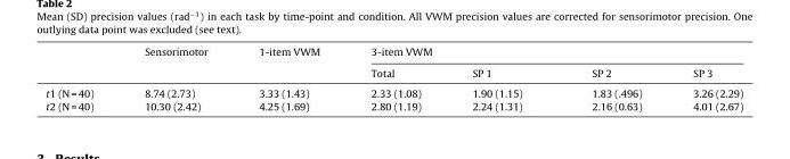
<table><thead><tr><td rowspan="2"></td><td rowspan="2">Sensorimotor</td><td rowspan="2">1-item VWM</td><td colspan="4">3-item VWM</td></tr><tr><td>Total</td><td>SP 1</td><td>SP 2</td><td>SP 3</td></tr></thead><tbody><tr><td>t1 (N = 40)</td><td>8.74 (2.73)</td><td>3.33 (1.43)</td><td>2.33 (1.08)</td><td>1.90 (1.15)</td><td>1.83 (.496)</td><td>3.26 (2.29)</td></tr><tr><td>t2 (N = 40)</td><td>10.30 (2.42)</td><td>4.25 (1.69)</td><td>2.80 (1.19)</td><td>2.24 (1.31)</td><td>2.16 (0.63)</td><td>4.01 (2.67)</td></tr></tbody></table>